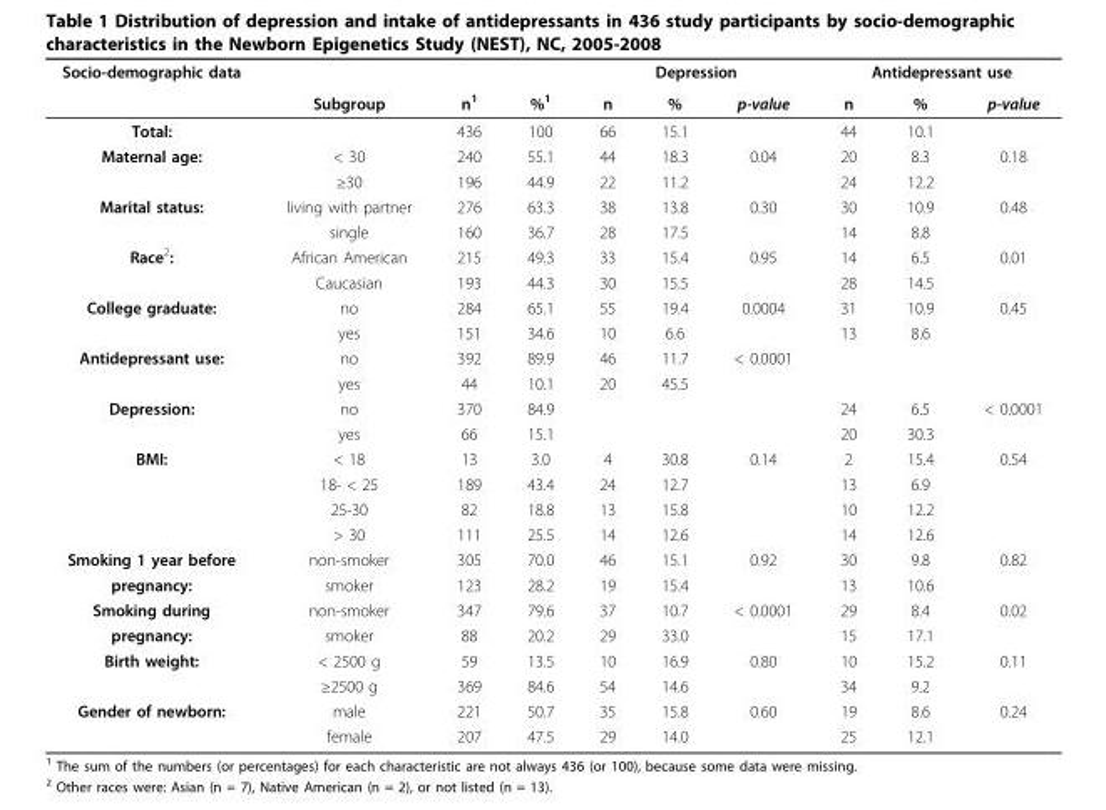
<table><thead><tr><td rowspan="2">Socio-demographic data</td><td rowspan="2">Subgroup</td><td rowspan="2">n<sup>1</sup></td><td rowspan="2">%<sup>1</sup></td><td colspan="3">Depression</td><td colspan="3">Antidepressant use</td></tr><tr><td>n</td><td>%</td><td>p-value</td><td>n</td><td>%</td><td>p-value</td></tr></thead><tbody><tr><td>Total:</td><td></td><td>436</td><td>100</td><td>66</td><td>15.1</td><td></td><td>44</td><td>10.1</td><td></td></tr><tr><td rowspan="2">Maternal age:</td><td>&lt; 30</td><td>240</td><td>55.1</td><td>44</td><td>18.3</td><td>0.04</td><td>20</td><td>8.3</td><td>0.18</td></tr><tr><td>≥30</td><td>196</td><td>44.9</td><td>22</td><td>11.2</td><td></td><td>24</td><td>12.2</td><td></td></tr><tr><td rowspan="2">Marital status:</td><td>living with partner</td><td>276</td><td>63.3</td><td>38</td><td>13.8</td><td>0.30</td><td>30</td><td>10.9</td><td>0.48</td></tr><tr><td>single</td><td>160</td><td>36.7</td><td>28</td><td>17.5</td><td></td><td>14</td><td>8.8</td><td></td></tr><tr><td rowspan="2">Race<sup>2</sup>:</td><td>African American</td><td>215</td><td>49.3</td><td>33</td><td>15.4</td><td>0.95</td><td>14</td><td>6.5</td><td>0.01</td></tr><tr><td>Caucasian</td><td>193</td><td>44.3</td><td>30</td><td>15.5</td><td></td><td>28</td><td>14.5</td><td></td></tr><tr><td rowspan="2">College graduate:</td><td>no</td><td>284</td><td>65.1</td><td>55</td><td>19.4</td><td>0.0004</td><td>31</td><td>10.9</td><td>0.45</td></tr><tr><td>yes</td><td>151</td><td>34.6</td><td>10</td><td>6.6</td><td></td><td>13</td><td>8.6</td><td></td></tr><tr><td rowspan="2">Antidepressant use:</td><td>no</td><td>392</td><td>89.9</td><td>46</td><td>11.7</td><td>&lt; 0.0001</td><td colspan="3"></td></tr><tr><td>yes</td><td>44</td><td>10.1</td><td>20</td><td>45.5</td><td></td><td colspan="3"></td></tr><tr><td rowspan="2">Depression:</td><td>no</td><td>370</td><td>84.9</td><td colspan="3"></td><td>24</td><td>6.5</td><td>&lt; 0.0001</td></tr><tr><td>yes</td><td>66</td><td>15.1</td><td colspan="3"></td><td>20</td><td>30.3</td><td></td></tr><tr><td rowspan="4">BMI:</td><td>&lt; 18</td><td>13</td><td>3.0</td><td>4</td><td>30.8</td><td>0.14</td><td>2</td><td>15.4</td><td>0.54</td></tr><tr><td>18- &lt; 25</td><td>189</td><td>43.4</td><td>24</td><td>12.7</td><td></td><td>13</td><td>6.9</td><td></td></tr><tr><td>25-30</td><td>82</td><td>18.8</td><td>13</td><td>15.8</td><td></td><td>10</td><td>12.2</td><td></td></tr><tr><td>&gt; 30</td><td>111</td><td>25.5</td><td>14</td><td>12.6</td><td></td><td>14</td><td>12.6</td><td></td></tr><tr><td>Smoking 1 year before</td><td>non-smoker</td><td>305</td><td>70.0</td><td>46</td><td>15.1</td><td>0.92</td><td>30</td><td>9.8</td><td>0.82</td></tr><tr><td>pregnancy:</td><td>smoker</td><td>123</td><td>28.2</td><td>19</td><td>15.4</td><td></td><td>13</td><td>10.6</td><td></td></tr><tr><td>Smoking during</td><td>non-smoker</td><td>347</td><td>79.6</td><td>37</td><td>10.7</td><td>&lt; 0.0001</td><td>29</td><td>8.4</td><td>0.02</td></tr><tr><td>pregnancy:</td><td>smoker</td><td>88</td><td>20.2</td><td>29</td><td>33.0</td><td></td><td>15</td><td>17.1</td><td></td></tr><tr><td rowspan="2">Birth weight:</td><td>&lt; 2500 g</td><td>59</td><td>13.5</td><td>10</td><td>16.9</td><td>0.80</td><td>10</td><td>15.2</td><td>0.11</td></tr><tr><td>≥2500 g</td><td>369</td><td>84.6</td><td>54</td><td>14.6</td><td></td><td>34</td><td>9.2</td><td></td></tr><tr><td rowspan="2">Gender of newborn:</td><td>male</td><td>221</td><td>50.7</td><td>35</td><td>15.8</td><td>0.60</td><td>19</td><td>8.6</td><td>0.24</td></tr><tr><td>female</td><td>207</td><td>47.5</td><td>29</td><td>14.0</td><td></td><td>25</td><td>12.1</td><td></td></tr></tbody></table>